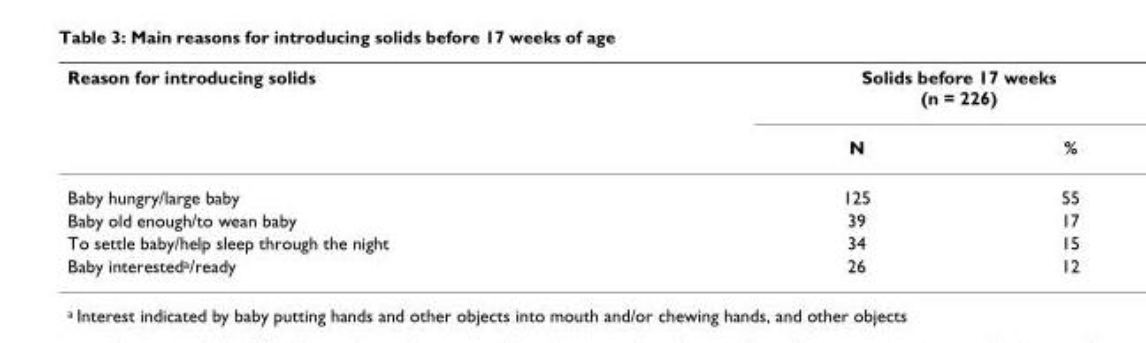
<table><thead><tr><td rowspan="2">Reason for introducing solids</td><td colspan="2">Solids before 17 weeks (n = 226)</td></tr><tr><td>N</td><td>%</td></tr></thead><tbody><tr><td>Baby hungry/large baby</td><td>125</td><td>55</td></tr><tr><td>Baby old enough/to wean baby</td><td>39</td><td>17</td></tr><tr><td>To settle baby/help sleep through the night</td><td>34</td><td>15</td></tr><tr><td>Baby interested<sup>a</sup>/ready</td><td>26</td><td>12</td></tr></tbody></table>